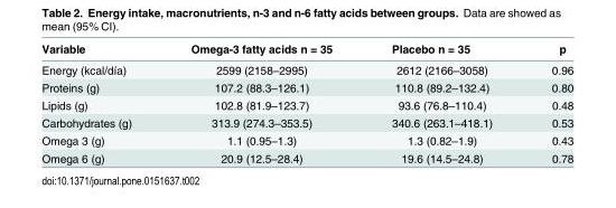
<table><thead><tr><td>Variable</td><td>Omega-3 fatty acids n = 35</td><td>Placebo n = 35</td><td>p</td></tr></thead><tbody><tr><td>Energy (kcal/día)</td><td>2599 (2158–2995)</td><td>2612 (2166–3058)</td><td>0.96</td></tr><tr><td>Proteins (g)</td><td>107.2 (88.3–126.1)</td><td>110.8 (89.2–132.4)</td><td>0.80</td></tr><tr><td>Lipids (g)</td><td>102.8 (81.9–123.7)</td><td>93.6 (76.8–110.4)</td><td>0.48</td></tr><tr><td>Carbohydrates (g)</td><td>313.9 (274.3–353.5)</td><td>340.6 (263.1–418.1)</td><td>0.53</td></tr><tr><td>Omega 3 (g)</td><td>1.1 (0.95–1.3)</td><td>1.3 (0.82–1.9)</td><td>0.43</td></tr><tr><td>Omega 6 (g)</td><td>20.9 (12.5–28.4)</td><td>19.6 (14.5–24.8)</td><td>0.78</td></tr></tbody></table>